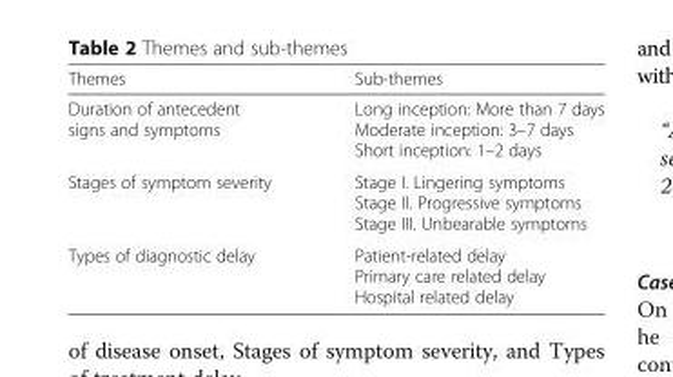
<table><thead><tr><td>Themes</td><td>Sub-themes</td></tr></thead><tbody><tr><td>Duration of antecedent signs and symptoms</td><td>Long inception: More than 7 days Moderate inception: 3–7 days Short inception: 1–2 days</td></tr><tr><td>Stages of symptom severity</td><td>Stage I. Lingering symptoms Stage II. Progressive symptoms Stage III. Unbearable symptoms</td></tr><tr><td>Types of diagnostic delay</td><td>Patient-related delay Primary care related delay Hospital related delay</td></tr></tbody></table>